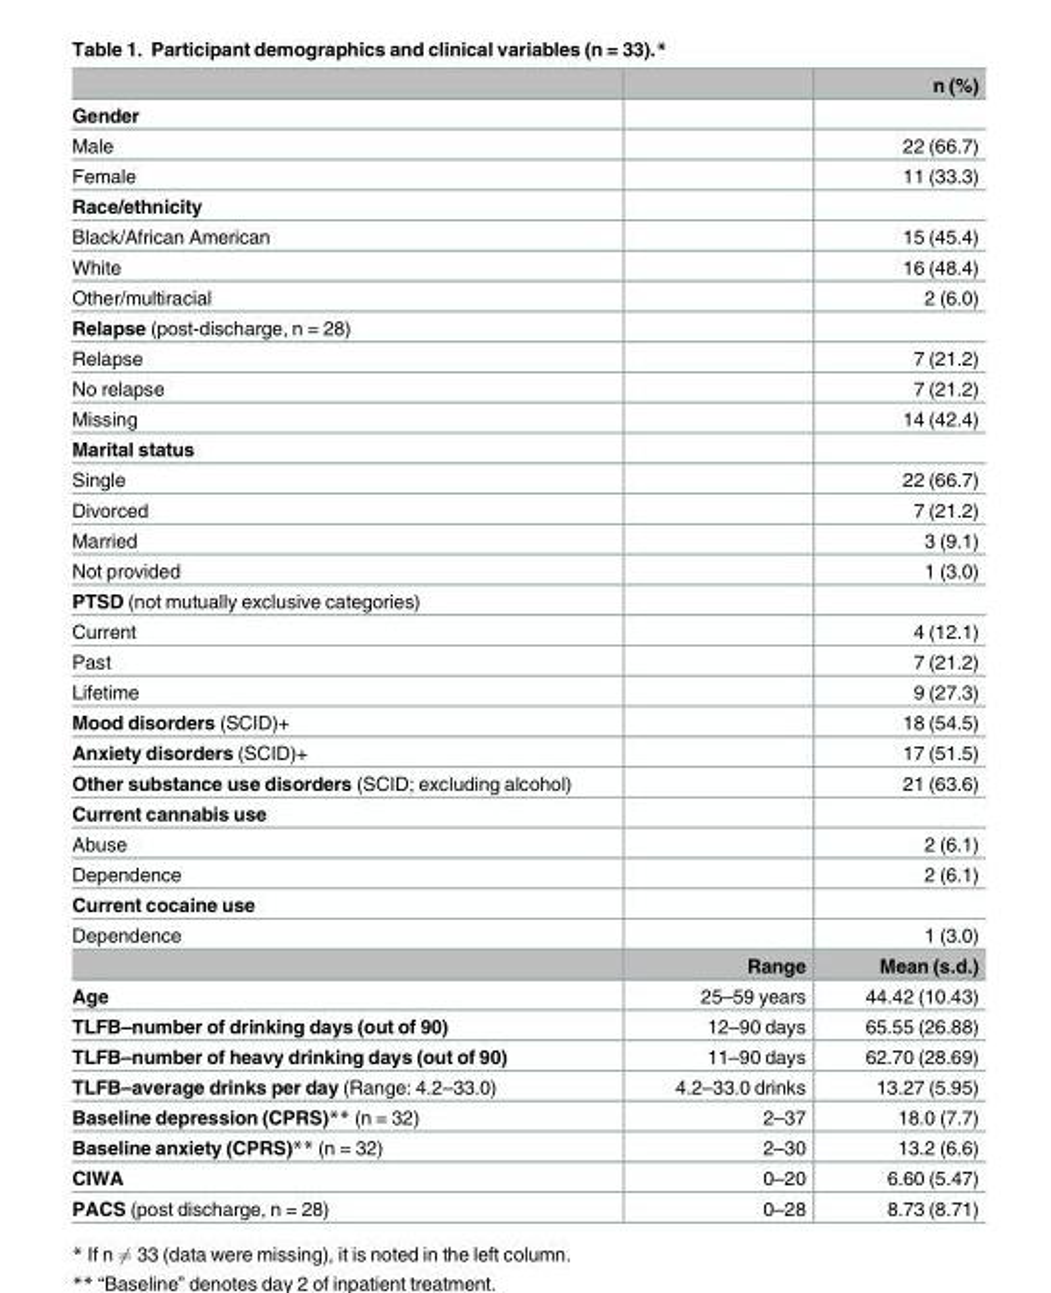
<table><thead><tr><td></td><td></td><td>n (%)</td></tr></thead><tbody><tr><td colspan="3">Gender</td></tr><tr><td>Male</td><td></td><td>22 (66.7)</td></tr><tr><td>Female</td><td></td><td>11 (33.3)</td></tr><tr><td colspan="3">Race/ethnicity</td></tr><tr><td>Black/African American</td><td></td><td>15 (45.4)</td></tr><tr><td>White</td><td></td><td>16 (48.4)</td></tr><tr><td>Other/multiracial</td><td></td><td>2 (6.0)</td></tr><tr><td colspan="3">Relapse (post-discharge, n = 28)</td></tr><tr><td>Relapse</td><td></td><td>7 (21.2)</td></tr><tr><td>No relapse</td><td></td><td>7 (21.2)</td></tr><tr><td>Missing</td><td></td><td>14 (42.4)</td></tr><tr><td colspan="3">Marital status</td></tr><tr><td>Single</td><td></td><td>22 (66.7)</td></tr><tr><td>Divorced</td><td></td><td>7 (21.2)</td></tr><tr><td>Married</td><td></td><td>3 (9.1)</td></tr><tr><td>Not provided</td><td></td><td>1 (3.0)</td></tr><tr><td colspan="3">PTSD (not mutually exclusive categories)</td></tr><tr><td>Current</td><td></td><td>4 (12.1)</td></tr><tr><td>Past</td><td></td><td>7 (21.2)</td></tr><tr><td>Lifetime</td><td></td><td>9 (27.3)</td></tr><tr><td>Mood disorders (SCID)+</td><td></td><td>18 (54.5)</td></tr><tr><td>Anxiety disorders (SCID)+</td><td></td><td>17 (51.5)</td></tr><tr><td>Other substance use disorders (SCID; excluding alcohol)</td><td></td><td>21 (63.6)</td></tr><tr><td colspan="3">Current cannabis use</td></tr><tr><td>Abuse</td><td></td><td>2 (6.1)</td></tr><tr><td>Dependence</td><td></td><td>2 (6.1)</td></tr><tr><td colspan="3">Current cocaine use</td></tr><tr><td rowspan="2">Dependence</td><td></td><td>1 (3.0)</td></tr><tr><td>Range</td><td>Mean (s.d.)</td></tr><tr><td>Age</td><td>25–59 years</td><td>44.42 (10.43)</td></tr><tr><td>TLFB–number of drinking days (out of 90)</td><td>12–90 days</td><td>65.55 (26.88)</td></tr><tr><td>TLFB–number of heavy drinking days (out of 90)</td><td>11–90 days</td><td>62.70 (28.69)</td></tr><tr><td>TLFB–average drinks per day (Range: 4.2–33.0)</td><td>4.2–33.0 drinks</td><td>13.27 (5.95)</td></tr><tr><td>Baseline depression (CPRS)** (n = 32)</td><td>2–37</td><td>18.0 (7.7)</td></tr><tr><td>Baseline anxiety (CPRS)** (n = 32)</td><td>2–30</td><td>13.2 (6.6)</td></tr><tr><td>CIWA</td><td>0–20</td><td>6.60 (5.47)</td></tr><tr><td>PACS (post discharge, n = 28)</td><td>0–28</td><td>8.73 (8.71)</td></tr></tbody></table>